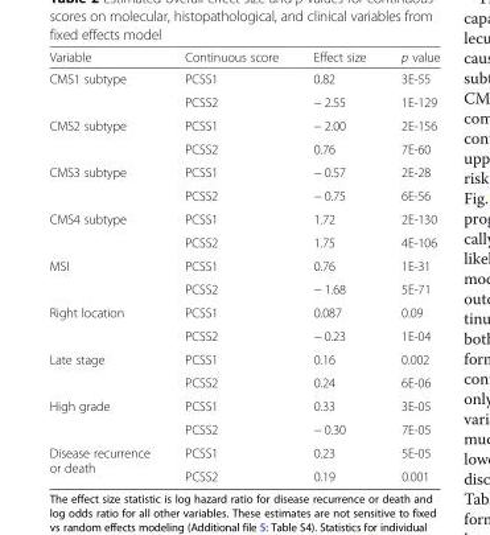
<table><thead><tr><td>Variable</td><td>Continuous score</td><td>Effect size</td><td>p value</td></tr></thead><tbody><tr><td rowspan="2">CMS1 subtype</td><td>PCSS1</td><td>0.82</td><td>3E-55</td></tr><tr><td>PCSS2</td><td>− 2.55</td><td>1E-129</td></tr><tr><td rowspan="2">CMS2 subtype</td><td>PCSS1</td><td>− 2.00</td><td>2E-156</td></tr><tr><td>PCSS2</td><td>0.76</td><td>7E-60</td></tr><tr><td rowspan="2">CMS3 subtype</td><td>PCSS1</td><td>− 0.57</td><td>2E-28</td></tr><tr><td>PCSS2</td><td>− 0.75</td><td>6E-56</td></tr><tr><td rowspan="2">CMS4 subtype</td><td>PCSS1</td><td>1.72</td><td>2E-130</td></tr><tr><td>PCSS2</td><td>1.75</td><td>4E-106</td></tr><tr><td rowspan="2">MSI</td><td>PCSS1</td><td>0.76</td><td>1E-31</td></tr><tr><td>PCSS2</td><td>− 1.68</td><td>5E-71</td></tr><tr><td rowspan="2">Right location</td><td>PCSS1</td><td>0.087</td><td>0.09</td></tr><tr><td>PCSS2</td><td>− 0.23</td><td>1E-04</td></tr><tr><td rowspan="2">Late stage</td><td>PCSS1</td><td>0.16</td><td>0.002</td></tr><tr><td>PCSS2</td><td>0.24</td><td>6E-06</td></tr><tr><td rowspan="2">High grade</td><td>PCSS1</td><td>0.33</td><td>3E-05</td></tr><tr><td>PCSS2</td><td>− 0.30</td><td>7E-05</td></tr><tr><td rowspan="2">Disease recurrence or death</td><td>PCSS1</td><td>0.23</td><td>5E-05</td></tr><tr><td>PCSS2</td><td>0.19</td><td>0.001</td></tr></tbody></table>